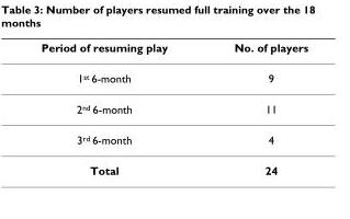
<table><thead><tr><td>Period of resuming play</td><td>No. of players</td></tr></thead><tbody><tr><td>1<sup>st</sup> 6-month</td><td>9</td></tr><tr><td>2<sup>nd</sup> 6-month</td><td>11</td></tr><tr><td>3<sup>rd</sup> 6-month</td><td>4</td></tr><tr><td>Total</td><td>24</td></tr></tbody></table>